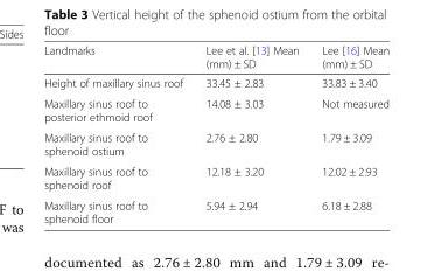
<table><thead><tr><td>Landmarks</td><td>Lee et al. [13] Mean (mm) ± SD</td><td>Lee [16] Mean (mm) ± SD</td></tr></thead><tbody><tr><td>Height of maxillary sinus roof</td><td>33.45 ± 2.83</td><td>33.83 ± 3.40</td></tr><tr><td>Maxillary sinus roof to posterior ethmoid roof</td><td>14.08 ± 3.03</td><td>Not measured</td></tr><tr><td>Maxillary sinus roof to sphenoid ostium</td><td>2.76 ± 2.80</td><td>1.79 ± 3.09</td></tr><tr><td>Maxillary sinus roof to sphenoid roof</td><td>12.18 ± 3.20</td><td>12.02 ± 2.93</td></tr><tr><td>Maxillary sinus roof to sphenoid floor</td><td>5.94 ± 2.94</td><td>6.18 ± 2.88</td></tr></tbody></table>